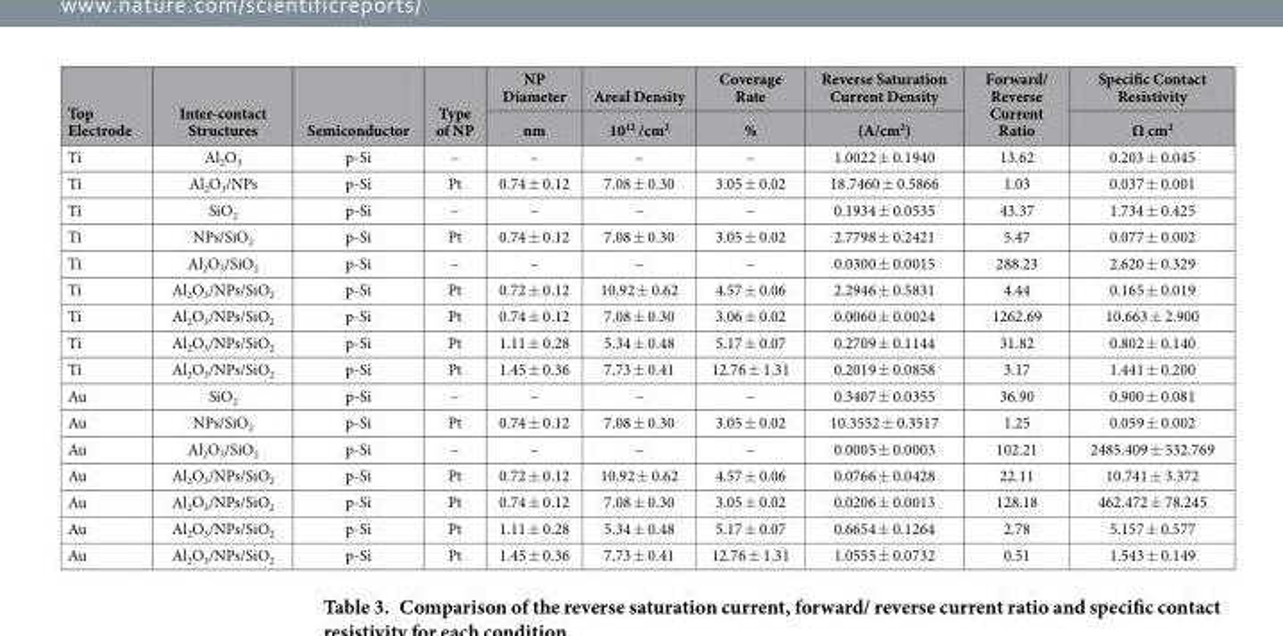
<table><thead><tr><td rowspan="2">Top Electrode</td><td rowspan="2">Inter-contact Structures</td><td rowspan="2">Semiconductor</td><td rowspan="2">Type of NP</td><td rowspan="2">NP Diameter nm</td><td rowspan="2">Areal Density 10<sup>12</sup> /cm<sup>2</sup></td><td rowspan="2">Coverage Rate %</td><td rowspan="2">Reverse Saturation Current Density (A/cm<sup>2</sup>)</td><td rowspan="2">Forward/ Reverse Current Ratio</td><td rowspan="2">Specific Contact Resistivity Ω cm<sup>2</sup></td></tr><tr></tr></thead><tbody><tr><td>Ti</td><td>Al<sub>2</sub>O<sub>3</sub></td><td>p-Si</td><td>–</td><td>–</td><td>–</td><td>–</td><td>1.0022 ± 0.1940</td><td>13.62</td><td>0.203 ± 0.045</td></tr><tr><td>Ti</td><td>Al<sub>2</sub>O<sub>3</sub>/NPs</td><td>p-Si</td><td>Pt</td><td>0.74 ± 0.12</td><td>7.08 ± 0.30</td><td>3.05 ± 0.02</td><td>18.7460 ± 0.5866</td><td>1.03</td><td>0.037 ± 0.001</td></tr><tr><td>Ti</td><td>SiO<sub>2</sub></td><td>p-Si</td><td>–</td><td>–</td><td>–</td><td>–</td><td>0.1934 ± 0.0535</td><td>43.37</td><td>1.734 ± 0.425</td></tr><tr><td>Ti</td><td>NPs/SiO<sub>2</sub></td><td>p-Si</td><td>Pt</td><td>0.74 ± 0.12</td><td>7.08 ± 0.30</td><td>3.05 ± 0.02</td><td>2.7798 ± 0.2421</td><td>5.47</td><td>0.077 ± 0.002</td></tr><tr><td>Ti</td><td>Al<sub>2</sub>O<sub>3</sub>/SiO<sub>2</sub></td><td>p-Si</td><td>–</td><td>–</td><td>–</td><td>–</td><td>0.0300 ± 0.0015</td><td>288.23</td><td>2.620 ± 0.329</td></tr><tr><td>Ti</td><td>Al<sub>2</sub>O<sub>3</sub>/NPs/SiO<sub>2</sub></td><td>p-Si</td><td>Pt</td><td>0.72 ± 0.12</td><td>10.92 ± 0.62</td><td>4.57 ± 0.06</td><td>2.2946 ± 0.5831</td><td>4.44</td><td>0.165 ± 0.019</td></tr><tr><td>Ti</td><td>Al<sub>2</sub>O<sub>3</sub>/NPs/SiO<sub>2</sub></td><td>p-Si</td><td>Pt</td><td>0.74 ± 0.12</td><td>7.08 ± 0.30</td><td>3.06 ± 0.02</td><td>0.0060 ± 0.0024</td><td>1262.69</td><td>10.663 ± 2.900</td></tr><tr><td>Ti</td><td>Al<sub>2</sub>O<sub>3</sub>/NPs/SiO<sub>2</sub></td><td>p-Si</td><td>Pt</td><td>1.11 ± 0.28</td><td>5.34 ± 0.48</td><td>5.17 ± 0.07</td><td>0.2709 ± 0.1144</td><td>31.82</td><td>0.802 ± 0.140</td></tr><tr><td>Ti</td><td>Al<sub>2</sub>O<sub>3</sub>/NPs/SiO<sub>2</sub></td><td>p-Si</td><td>Pt</td><td>1.45 ± 0.36</td><td>7.73 ± 0.41</td><td>12.76 ± 1.31</td><td>0.2019 ± 0.0858</td><td>3.17</td><td>1.441 ± 0.200</td></tr><tr><td>Au</td><td>SiO<sub>2</sub></td><td>p-Si</td><td>–</td><td>–</td><td>–</td><td>–</td><td>0.3407 ± 0.0355</td><td>36.90</td><td>0.900 ± 0.081</td></tr><tr><td>Au</td><td>NPs/SiO<sub>2</sub></td><td>p-Si</td><td>Pt</td><td>0.74 ± 0.12</td><td>7.08 ± 0.30</td><td>3.05 ± 0.02</td><td>10.3552 ± 0.3517</td><td>1.25</td><td>0.059 ± 0.002</td></tr><tr><td>Au</td><td>Al<sub>2</sub>O<sub>3</sub>/SiO<sub>2</sub></td><td>p-Si</td><td>–</td><td>–</td><td>–</td><td>–</td><td>0.0005 ± 0.0003</td><td>102.21</td><td>2485.409 ± 532.769</td></tr><tr><td>Au</td><td>Al<sub>2</sub>O<sub>3</sub>/NPs/SiO<sub>2</sub></td><td>p-Si</td><td>Pt</td><td>0.72 ± 0.12</td><td>10.92 ± 0.62</td><td>4.57 ± 0.06</td><td>0.0766 ± 0.0428</td><td>22.11</td><td>10.741 ± 3.372</td></tr><tr><td>Au</td><td>Al<sub>2</sub>O<sub>3</sub>/NPs/SiO<sub>2</sub></td><td>p-Si</td><td>Pt</td><td>0.74 ± 0.12</td><td>7.08 ± 0.30</td><td>3.05 ± 0.02</td><td>0.0206 ± 0.0013</td><td>128.18</td><td>462.472 ± 78.245</td></tr><tr><td>Au</td><td>Al<sub>2</sub>O<sub>3</sub>/NPs/SiO<sub>2</sub></td><td>p-Si</td><td>Pt</td><td>1.11 ± 0.28</td><td>5.34 ± 0.48</td><td>5.17 ± 0.07</td><td>0.6654 ± 0.1264</td><td>2.78</td><td>5.157 ± 0.577</td></tr><tr><td>Au</td><td>Al<sub>2</sub>O<sub>3</sub>/NPs/SiO<sub>2</sub></td><td>p-Si</td><td>Pt</td><td>1.45 ± 0.36</td><td>7.73 ± 0.41</td><td>12.76 ± 1.31</td><td>1.0555 ± 0.0732</td><td>0.51</td><td>1.543 ± 0.149</td></tr></tbody></table>